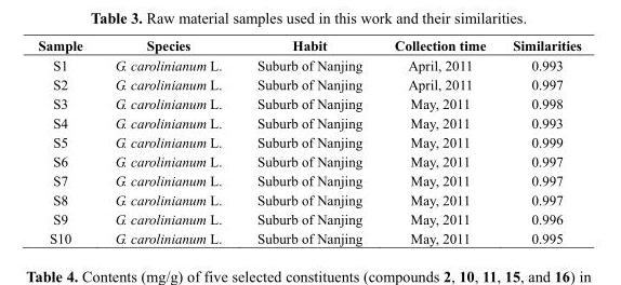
<table><thead><tr><td>Sample</td><td>Species</td><td>Habit</td><td>Collection time</td><td>Similarities</td></tr></thead><tbody><tr><td>S1</td><td>G. carolinianum L.</td><td>Suburb of Nanjing</td><td>April, 2011</td><td>0.993</td></tr><tr><td>S2</td><td>G. carolinianum L.</td><td>Suburb of Nanjing</td><td>April, 2011</td><td>0.997</td></tr><tr><td>S3</td><td>G. carolinianum L.</td><td>Suburb of Nanjing</td><td>May, 2011</td><td>0.998</td></tr><tr><td>S4</td><td>G. carolinianum L.</td><td>Suburb of Nanjing</td><td>May, 2011</td><td>0.993</td></tr><tr><td>S5</td><td>G. carolinianum L.</td><td>Suburb of Nanjing</td><td>May, 2011</td><td>0.999</td></tr><tr><td>S6</td><td>G. carolinianum L.</td><td>Suburb of Nanjing</td><td>May, 2011</td><td>0.997</td></tr><tr><td>S7</td><td>G. carolinianum L.</td><td>Suburb of Nanjing</td><td>May, 2011</td><td>0.997</td></tr><tr><td>S8</td><td>G. carolinianum L.</td><td>Suburb of Nanjing</td><td>May, 2011</td><td>0.997</td></tr><tr><td>S9</td><td>G. carolinianum L.</td><td>Suburb of Nanjing</td><td>May, 2011</td><td>0.996</td></tr><tr><td>S10</td><td>G. carolinianum L.</td><td>Suburb of Nanjing</td><td>May, 2011</td><td>0.995</td></tr></tbody></table>